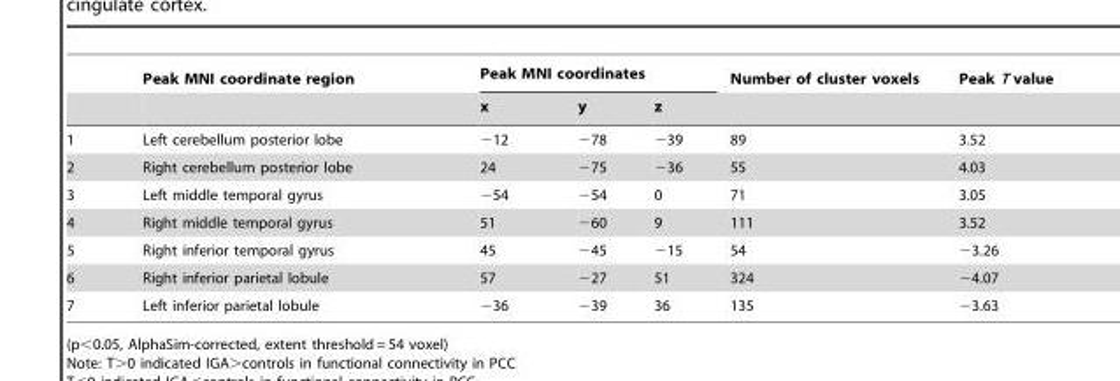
<table><thead><tr><td rowspan="2"></td><td rowspan="2">Peak MNI coordinate region</td><td colspan="3">Peak MNI coordinates</td><td rowspan="2">Number of cluster voxels</td><td rowspan="2">Peak T value</td></tr><tr><td>x</td><td>y</td><td>z</td></tr></thead><tbody><tr><td>1</td><td>Left cerebellum posterior lobe</td><td>−12</td><td>−78</td><td>−39</td><td>89</td><td>3.52</td></tr><tr><td>2</td><td>Right cerebellum posterior lobe</td><td>24</td><td>−75</td><td>−36</td><td>55</td><td>4.03</td></tr><tr><td>3</td><td>Left middle temporal gyrus</td><td>−54</td><td>−54</td><td>0</td><td>71</td><td>3.05</td></tr><tr><td>4</td><td>Right middle temporal gyrus</td><td>51</td><td>−60</td><td>9</td><td>111</td><td>3.52</td></tr><tr><td>5</td><td>Right inferior temporal gyrus</td><td>45</td><td>−45</td><td>−15</td><td>54</td><td>−3.26</td></tr><tr><td>6</td><td>Right inferior parietal lobule</td><td>57</td><td>−27</td><td>51</td><td>324</td><td>−4.07</td></tr><tr><td>7</td><td>Left inferior parietal lobule</td><td>−36</td><td>−39</td><td>36</td><td>135</td><td>−3.63</td></tr></tbody></table>